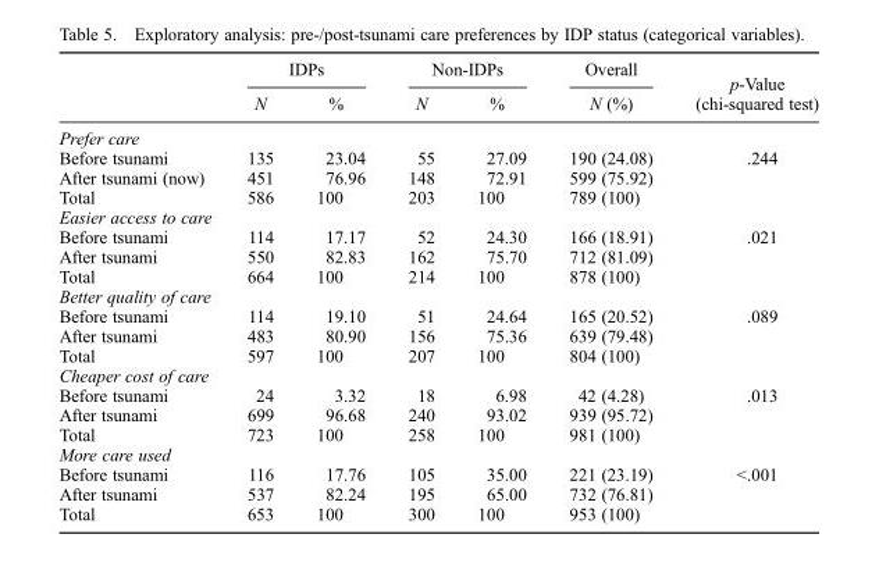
<table><thead><tr><td rowspan="2"></td><td colspan="2">IDPs</td><td colspan="2">Non-IDPs</td><td rowspan="2">Overall N (%)</td><td rowspan="2">p-Value (chi-squared test)</td></tr><tr><td>N</td><td>%</td><td>N</td><td>%</td></tr></thead><tbody><tr><td colspan="7">Prefer care</td></tr><tr><td>Before tsunami</td><td>135</td><td>23.04</td><td>55</td><td>27.09</td><td>190 (24.08)</td><td>.244</td></tr><tr><td>After tsunami (now)</td><td>451</td><td>76.96</td><td>148</td><td>72.91</td><td>599 (75.92)</td><td></td></tr><tr><td>Total</td><td>586</td><td>100</td><td>203</td><td>100</td><td>789 (100)</td><td></td></tr><tr><td colspan="7">Easier access to care</td></tr><tr><td>Before tsunami</td><td>114</td><td>17.17</td><td>52</td><td>24.30</td><td>166 (18.91)</td><td>.021</td></tr><tr><td>After tsunami</td><td>550</td><td>82.83</td><td>162</td><td>75.70</td><td>712 (81.09)</td><td></td></tr><tr><td>Total</td><td>664</td><td>100</td><td>214</td><td>100</td><td>878 (100)</td><td></td></tr><tr><td colspan="7">Better quality of care</td></tr><tr><td>Before tsunami</td><td>114</td><td>19.10</td><td>51</td><td>24.64</td><td>165 (20.52)</td><td>.089</td></tr><tr><td>After tsunami</td><td>483</td><td>80.90</td><td>156</td><td>75.36</td><td>639 (79.48)</td><td></td></tr><tr><td>Total</td><td>597</td><td>100</td><td>207</td><td>100</td><td>804 (100)</td><td></td></tr><tr><td colspan="7">Cheaper cost of care</td></tr><tr><td>Before tsunami</td><td>24</td><td>3.32</td><td>18</td><td>6.98</td><td>42 (4.28)</td><td>.013</td></tr><tr><td>After tsunami</td><td>699</td><td>96.68</td><td>240</td><td>93.02</td><td>939 (95.72)</td><td></td></tr><tr><td>Total</td><td>723</td><td>100</td><td>258</td><td>100</td><td>981 (100)</td><td></td></tr><tr><td colspan="7">More care used</td></tr><tr><td>Before tsunami</td><td>116</td><td>17.76</td><td>105</td><td>35.00</td><td>221 (23.19)</td><td>&lt;.001</td></tr><tr><td>After tsunami</td><td>537</td><td>82.24</td><td>195</td><td>65.00</td><td>732 (76.81)</td><td></td></tr><tr><td>Total</td><td>653</td><td>100</td><td>300</td><td>100</td><td>953 (100)</td><td></td></tr></tbody></table>